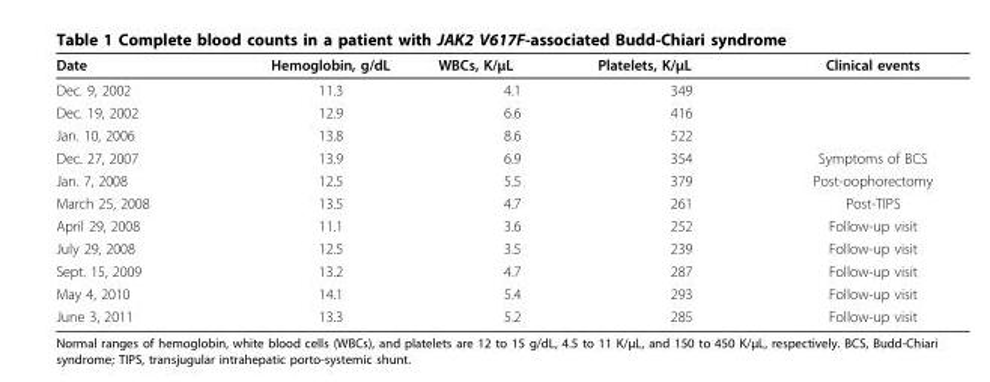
<table><thead><tr><td>Date</td><td>Hemoglobin, g/dL</td><td>WBCs, K/μL</td><td>Platelets, K/μL</td><td>Clinical events</td></tr></thead><tbody><tr><td>Dec. 9, 2002</td><td>11.3</td><td>4.1</td><td>349</td><td></td></tr><tr><td>Dec. 19, 2002</td><td>12.9</td><td>6.6</td><td>416</td><td></td></tr><tr><td>Jan. 10, 2006</td><td>13.8</td><td>8.6</td><td>522</td><td></td></tr><tr><td>Dec. 27, 2007</td><td>13.9</td><td>6.9</td><td>354</td><td>Symptoms of BCS</td></tr><tr><td>Jan. 7, 2008</td><td>12.5</td><td>5.5</td><td>379</td><td>Post-oophorectomy</td></tr><tr><td>March 25, 2008</td><td>13.5</td><td>4.7</td><td>261</td><td>Post-TIPS</td></tr><tr><td>April 29, 2008</td><td>11.1</td><td>3.6</td><td>252</td><td>Follow-up visit</td></tr><tr><td>July 29, 2008</td><td>12.5</td><td>3.5</td><td>239</td><td>Follow-up visit</td></tr><tr><td>Sept. 15, 2009</td><td>13.2</td><td>4.7</td><td>287</td><td>Follow-up visit</td></tr><tr><td>May 4, 2010</td><td>14.1</td><td>5.4</td><td>293</td><td>Follow-up visit</td></tr><tr><td>June 3, 2011</td><td>13.3</td><td>5.2</td><td>285</td><td>Follow-up visit</td></tr></tbody></table>